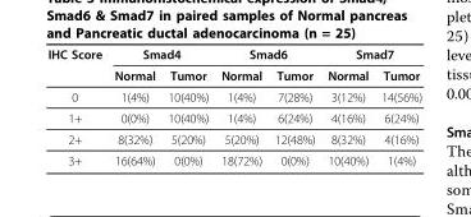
<table><thead><tr><td rowspan="2">IHC Score</td><td colspan="2">Smad4</td><td colspan="2">Smad6</td><td colspan="2">Smad7</td></tr><tr><td>Normal</td><td>Tumor</td><td>Normal</td><td>Tumor</td><td>Normal</td><td>Tumor</td></tr></thead><tbody><tr><td>0</td><td>1(4%)</td><td>10(40%)</td><td>1(4%)</td><td>7(28%)</td><td>3(12%)</td><td>14(56%)</td></tr><tr><td>1+</td><td>0(0%)</td><td>10(40%)</td><td>1(4%)</td><td>6(24%)</td><td>4(16%)</td><td>6(24%)</td></tr><tr><td>2+</td><td>8(32%)</td><td>5(20%)</td><td>5(20%)</td><td>12(48%)</td><td>8(32%)</td><td>4(16%)</td></tr><tr><td>3+</td><td>16(64%)</td><td>0(0%)</td><td>18(72%)</td><td>0(0%)</td><td>10(40%)</td><td>1(4%)</td></tr></tbody></table>